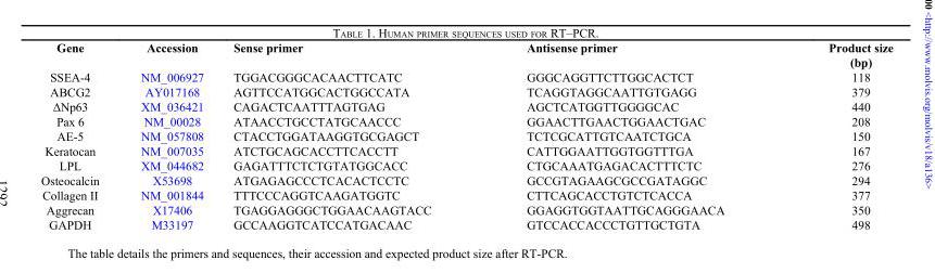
<table><thead><tr><td>Gene</td><td>Accession</td><td>Sense primer</td><td>Antisense primer</td><td>Product size (bp)</td></tr></thead><tbody><tr><td>SSEA-4</td><td>NM_006927</td><td>TGGACGGGCACAACTTCATC</td><td>GGGCAGGTTCTTGGCACTCT</td><td>118</td></tr><tr><td>ABCG2</td><td>AY017168</td><td>AGTTCCATGGCACTGGCCATA</td><td>TCAGGTAGGCAATTGTGAGG</td><td>379</td></tr><tr><td>ΔNp63</td><td>XM_036421</td><td>CAGACTCAATTTAGTGAG</td><td>AGCTCATGGTTGGGGCAC</td><td>440</td></tr><tr><td>Pax 6</td><td>NM_00028</td><td>ATAACCTGCCTATGCAACCC</td><td>GGAACTTGAACTGGAACTGAC</td><td>208</td></tr><tr><td>AE-5</td><td>NM_057808</td><td>CTACCTGGATAAGGTGCGAGCT</td><td>TCTCGCATTGTCAATCTGCA</td><td>150</td></tr><tr><td>Keratocan</td><td>NM_007035</td><td>ATCTGCAGCACCTTCACCTT</td><td>CATTGGAATTGGTGGTTTGA</td><td>167</td></tr><tr><td>LPL</td><td>XM_044682</td><td>GAGATTTCTCTGTATGGCACC</td><td>CTGCAAATGAGACACTTTCTC</td><td>276</td></tr><tr><td>Osteocalcin</td><td>X53698</td><td>ATGAGAGCCCTCACACTCCTC</td><td>GCCGTAGAAGCGCCGATAGGC</td><td>294</td></tr><tr><td>Collagen II</td><td>NM_001844</td><td>TTTCCCAGGTCAAGATGGTC</td><td>CTTCAGCACCTGTCTCACCA</td><td>377</td></tr><tr><td>Aggrecan</td><td>X17406</td><td>TGAGGAGGGCTGGAACAAGTACC</td><td>GGAGGTGGTAATTGCAGGGAACA</td><td>350</td></tr><tr><td>GAPDH</td><td>M33197</td><td>GCCAAGGTCATCCATGACAAC</td><td>GTCCACCACCCTGTTGCTGTA</td><td>498</td></tr></tbody></table>